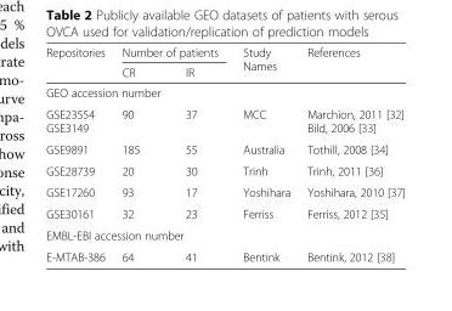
<table><thead><tr><td rowspan="2">Repositories</td><td colspan="2">Number of patients</td><td rowspan="2">Study Names</td><td rowspan="2">References</td></tr><tr><td>CR</td><td>IR</td></tr></thead><tbody><tr><td colspan="5">GEO accession number</td></tr><tr><td>GSE23554 GSE3149</td><td>90</td><td>37</td><td>MCC</td><td>Marchion, 2011 [32] Bild, 2006 [33]</td></tr><tr><td>GSE9891</td><td>185</td><td>55</td><td>Australia</td><td>Tothill, 2008 [34]</td></tr><tr><td>GSE28739</td><td>20</td><td>30</td><td>Trinh</td><td>Trinh, 2011 [36]</td></tr><tr><td>GSE17260</td><td>93</td><td>17</td><td>Yoshihara</td><td>Yoshihara, 2010 [37]</td></tr><tr><td>GSE30161</td><td>32</td><td>23</td><td>Ferriss</td><td>Ferriss, 2012 [35]</td></tr><tr><td colspan="5">EMBL-EBI accession number</td></tr><tr><td>E-MTAB-386</td><td>64</td><td>41</td><td>Bentink</td><td>Bentink, 2012 [38]</td></tr></tbody></table>